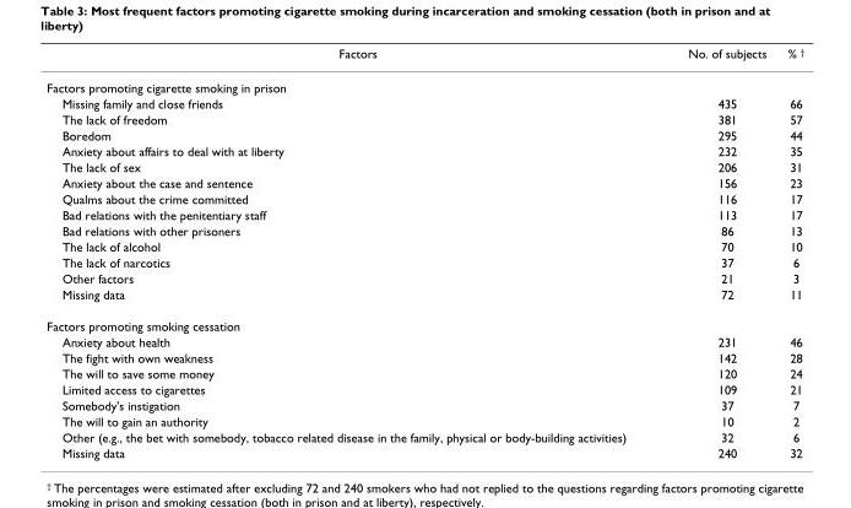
<table><thead><tr><td>Factors</td><td>No. of subjects</td><td>% †</td></tr></thead><tbody><tr><td colspan="3">Factors promoting cigarette smoking in prison</td></tr><tr><td>Missing family and close friends</td><td>435</td><td>66</td></tr><tr><td>The lack of freedom</td><td>381</td><td>57</td></tr><tr><td>Boredom</td><td>295</td><td>44</td></tr><tr><td>Anxiety about affairs to deal with at liberty</td><td>232</td><td>35</td></tr><tr><td>The lack of sex</td><td>206</td><td>31</td></tr><tr><td>Anxiety about the case and sentence</td><td>156</td><td>23</td></tr><tr><td>Qualms about the crime committed</td><td>116</td><td>17</td></tr><tr><td>Bad relations with the penitentiary staff</td><td>113</td><td>17</td></tr><tr><td>Bad relations with other prisoners</td><td>86</td><td>13</td></tr><tr><td>The lack of alcohol</td><td>70</td><td>10</td></tr><tr><td>The lack of narcotics</td><td>37</td><td>6</td></tr><tr><td>Other factors</td><td>21</td><td>3</td></tr><tr><td>Missing data</td><td>72</td><td>11</td></tr><tr><td colspan="3">Factors promoting smoking cessation</td></tr><tr><td>Anxiety about health</td><td>231</td><td>46</td></tr><tr><td>The fight with own weakness</td><td>142</td><td>28</td></tr><tr><td>The will to save some money</td><td>120</td><td>24</td></tr><tr><td>Limited access to cigarettes</td><td>109</td><td>21</td></tr><tr><td>Somebody&#x27;s instigation</td><td>37</td><td>7</td></tr><tr><td>The will to gain an authority</td><td>10</td><td>2</td></tr><tr><td>Other (e.g., the bet with somebody, tobacco related disease in the family, physical or body-building activities)</td><td>32</td><td>6</td></tr><tr><td>Missing data</td><td>240</td><td>32</td></tr></tbody></table>